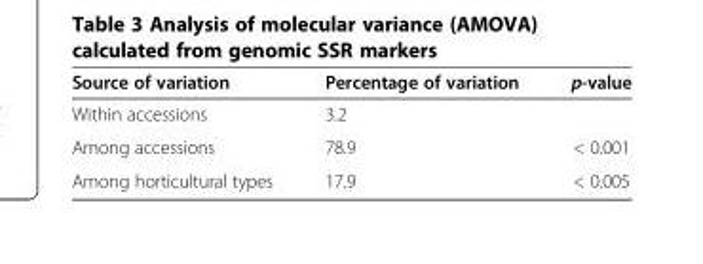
<table><thead><tr><td>Source of variation</td><td>Percentage of variation</td><td>p-value</td></tr></thead><tbody><tr><td>Within accessions</td><td>3.2</td><td></td></tr><tr><td>Among accessions</td><td>78.9</td><td>&lt; 0.001</td></tr><tr><td>Among horticultural types</td><td>17.9</td><td>&lt; 0.005</td></tr></tbody></table>